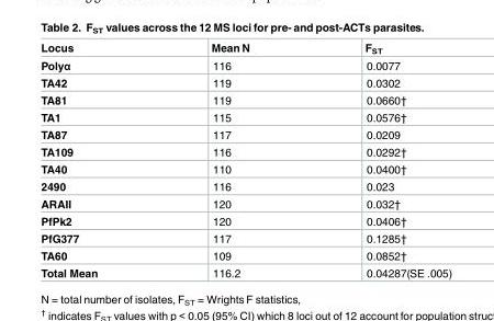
<table><thead><tr><td>Locus</td><td>Mean N</td><td>F<sub>ST</sub></td></tr></thead><tbody><tr><td>Polyα</td><td>116</td><td>0.0077</td></tr><tr><td>TA42</td><td>119</td><td>0.0302</td></tr><tr><td>TA81</td><td>119</td><td>0.0660†</td></tr><tr><td>TA1</td><td>115</td><td>0.0576†</td></tr><tr><td>TA87</td><td>117</td><td>0.0209</td></tr><tr><td>TA109</td><td>116</td><td>0.0292†</td></tr><tr><td>TA40</td><td>110</td><td>0.0400†</td></tr><tr><td>2490</td><td>116</td><td>0.023</td></tr><tr><td>ARAII</td><td>120</td><td>0.032†</td></tr><tr><td>PfPk2</td><td>120</td><td>0.0406†</td></tr><tr><td>PfG377</td><td>117</td><td>0.1285†</td></tr><tr><td>TA60</td><td>109</td><td>0.0852†</td></tr><tr><td>Total Mean</td><td>116.2</td><td>0.04287(SE .005)</td></tr></tbody></table>